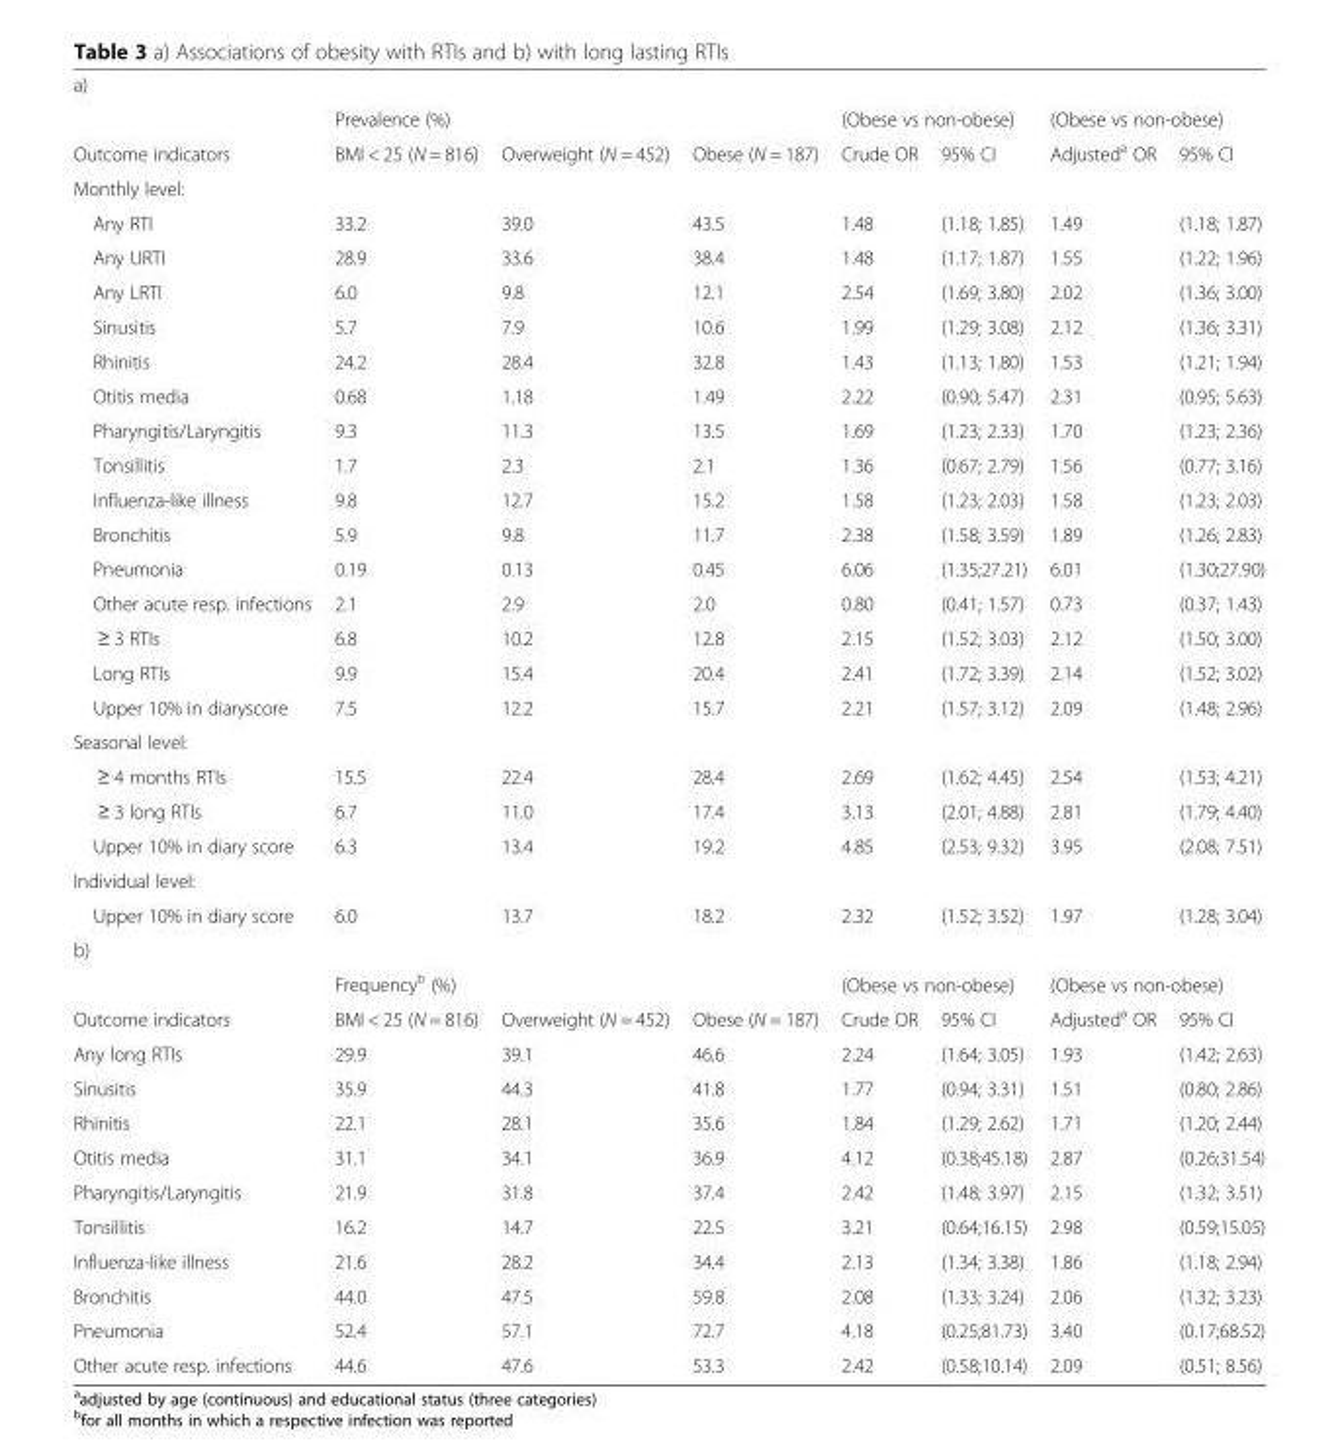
<table><tbody><tr><td colspan="8">a)</td></tr><tr><td></td><td colspan="2">Prevalence (%)</td><td></td><td colspan="2">(Obese vs non-obese)</td><td colspan="2">(Obese vs non-obese)</td></tr><tr><td>Outcome indicators</td><td>BMI &lt; 25 (N = 816)</td><td>Overweight (N = 452)</td><td>Obese (N = 187)</td><td>Crude OR</td><td>95% CI</td><td>Adjusted<sup>a</sup> OR</td><td>95% CI</td></tr><tr><td colspan="8">Monthly level:</td></tr><tr><td>Any RTI</td><td>33.2</td><td>39.0</td><td>43.5</td><td>1.48</td><td>(1.18; 1.85)</td><td>1.49</td><td>(1.18; 1.87)</td></tr><tr><td>Any URTI</td><td>28.9</td><td>33.6</td><td>38.4</td><td>1.48</td><td>(1.17; 1.87)</td><td>1.55</td><td>(1.22; 1.96)</td></tr><tr><td>Any LRTI</td><td>6.0</td><td>9.8</td><td>12.1</td><td>2.54</td><td>(1.69; 3.80)</td><td>2.02</td><td>(1.36; 3.00)</td></tr><tr><td>Sinusitis</td><td>5.7</td><td>7.9</td><td>10.6</td><td>1.99</td><td>(1.29; 3.08)</td><td>2.12</td><td>(1.36; 3.31)</td></tr><tr><td>Rhinitis</td><td>24.2</td><td>28.4</td><td>32.8</td><td>1.43</td><td>(1.13; 1.80)</td><td>1.53</td><td>(1.21; 1.94)</td></tr><tr><td>Otitis media</td><td>0.68</td><td>1.18</td><td>1.49</td><td>2.22</td><td>(0.90; 5.47)</td><td>2.31</td><td>(0.95; 5.63)</td></tr><tr><td>Pharyngitis/Laryngitis</td><td>9.3</td><td>11.3</td><td>13.5</td><td>1.69</td><td>(1.23; 2.33)</td><td>1.70</td><td>(1.23; 2.36)</td></tr><tr><td>Tonsillitis</td><td>1.7</td><td>2.3</td><td>2.1</td><td>1.36</td><td>(0.67; 2.79)</td><td>1.56</td><td>(0.77; 3.16)</td></tr><tr><td>Influenza-like illness</td><td>9.8</td><td>12.7</td><td>15.2</td><td>1.58</td><td>(1.23; 2.03)</td><td>1.58</td><td>(1.23; 2.03)</td></tr><tr><td>Bronchitis</td><td>5.9</td><td>9.8</td><td>11.7</td><td>2.38</td><td>(1.58; 3.59)</td><td>1.89</td><td>(1.26; 2.83)</td></tr><tr><td>Pneumonia</td><td>0.19</td><td>0.13</td><td>0.45</td><td>6.06</td><td>(1.35;27.21)</td><td>6.01</td><td>(1.30;27.90)</td></tr><tr><td>Other acute resp. infections</td><td>2.1</td><td>2.9</td><td>2.0</td><td>0.80</td><td>(0.41; 1.57)</td><td>0.73</td><td>(0.37; 1.43)</td></tr><tr><td>≥ 3 RTIs</td><td>6.8</td><td>10.2</td><td>12.8</td><td>2.15</td><td>(1.52; 3.03)</td><td>2.12</td><td>(1.50; 3.00)</td></tr><tr><td>Long RTIs</td><td>9.9</td><td>15.4</td><td>20.4</td><td>2.41</td><td>(1.72; 3.39)</td><td>2.14</td><td>(1.52; 3.02)</td></tr><tr><td>Upper 10% in diaryscore</td><td>7.5</td><td>12.2</td><td>15.7</td><td>2.21</td><td>(1.57; 3.12)</td><td>2.09</td><td>(1.48; 2.96)</td></tr><tr><td colspan="8">Seasonal level:</td></tr><tr><td>≥ 4 months RTIs</td><td>15.5</td><td>22.4</td><td>28.4</td><td>2.69</td><td>(1.62; 4.45)</td><td>2.54</td><td>(1.53; 4.21)</td></tr><tr><td>≥ 3 long RTIs</td><td>6.7</td><td>11.0</td><td>17.4</td><td>3.13</td><td>(2.01; 4.88)</td><td>2.81</td><td>(1.79; 4.40)</td></tr><tr><td>Upper 10% in diary score</td><td>6.3</td><td>13.4</td><td>19.2</td><td>4.85</td><td>(2.53; 9.32)</td><td>3.95</td><td>(2.08; 7.51)</td></tr><tr><td colspan="8">Individual level:</td></tr><tr><td>Upper 10% in diary score</td><td>6.0</td><td>13.7</td><td>18.2</td><td>2.32</td><td>(1.52; 3.52)</td><td>1.97</td><td>(1.28; 3.04)</td></tr><tr><td colspan="8">b)</td></tr><tr><td></td><td colspan="3">Frequency<sup>b</sup> (%)</td><td colspan="2">(Obese vs non-obese)</td><td colspan="2">(Obese vs non-obese)</td></tr><tr><td>Outcome indicators</td><td>BMI &lt; 25 (N = 816)</td><td>Overweight (N = 452)</td><td>Obese (N = 187)</td><td>Crude OR</td><td>95% CI</td><td>Adjusted<sup>a</sup> OR</td><td>95% CI</td></tr><tr><td>Any long RTIs</td><td>29.9</td><td>39.1</td><td>46.6</td><td>2.24</td><td>(1.64; 3.05)</td><td>1.93</td><td>(1.42; 2.63)</td></tr><tr><td>Sinusitis</td><td>35.9</td><td>44.3</td><td>41.8</td><td>1.77</td><td>(0.94; 3.31)</td><td>1.51</td><td>(0.80; 2.86)</td></tr><tr><td>Rhinitis</td><td>22.1</td><td>28.1</td><td>35.6</td><td>1.84</td><td>(1.29; 2.62)</td><td>1.71</td><td>(1.20; 2.44)</td></tr><tr><td>Otitis media</td><td>31.1</td><td>34.1</td><td>36.9</td><td>4.12</td><td>(0.38;45.18)</td><td>2.87</td><td>(0.26;31.54)</td></tr><tr><td>Pharyngitis/Laryngitis</td><td>21.9</td><td>31.8</td><td>37.4</td><td>2.42</td><td>(1.48; 3.97)</td><td>2.15</td><td>(1.32; 3.51)</td></tr><tr><td>Tonsillitis</td><td>16.2</td><td>14.7</td><td>22.5</td><td>3.21</td><td>(0.64;16.15)</td><td>2.98</td><td>(0.59;15.05)</td></tr><tr><td>Influenza-like illness</td><td>21.6</td><td>28.2</td><td>34.4</td><td>2.13</td><td>(1.34; 3.38)</td><td>1.86</td><td>(1.18; 2.94)</td></tr><tr><td>Bronchitis</td><td>44.0</td><td>47.5</td><td>59.8</td><td>2.08</td><td>(1.33; 3.24)</td><td>2.06</td><td>(1.32; 3.23)</td></tr><tr><td>Pneumonia</td><td>52.4</td><td>57.1</td><td>72.7</td><td>4.18</td><td>(0.25;81.73)</td><td>3.40</td><td>(0.17;68.52)</td></tr><tr><td>Other acute resp. infections</td><td>44.6</td><td>47.6</td><td>53.3</td><td>2.42</td><td>(0.58;10.14)</td><td>2.09</td><td>(0.51; 8.56)</td></tr></tbody></table>